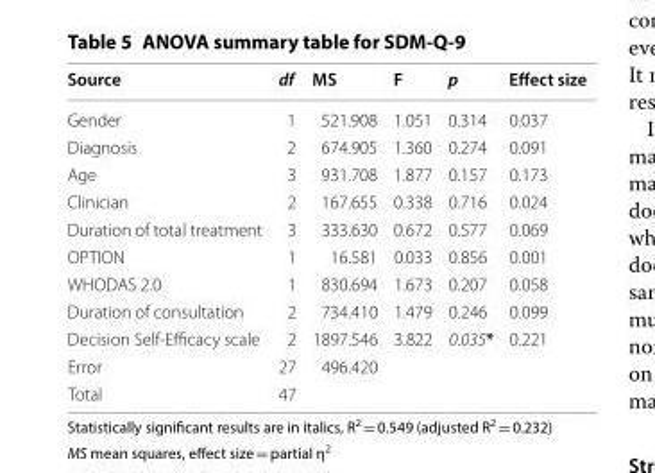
<table><thead><tr><td>Source</td><td>df</td><td>MS</td><td>F</td><td>p</td><td>Effect size</td></tr></thead><tbody><tr><td>Gender</td><td>1</td><td>521.908</td><td>1.051</td><td>0.314</td><td>0.037</td></tr><tr><td>Diagnosis</td><td>2</td><td>674.905</td><td>1.360</td><td>0.274</td><td>0.091</td></tr><tr><td>Age</td><td>3</td><td>931.708</td><td>1.877</td><td>0.157</td><td>0.173</td></tr><tr><td>Clinician</td><td>2</td><td>167.655</td><td>0.338</td><td>0.716</td><td>0.024</td></tr><tr><td>Duration of total treatment</td><td>3</td><td>333.630</td><td>0.672</td><td>0.577</td><td>0.069</td></tr><tr><td>OPTION</td><td>1</td><td>16.581</td><td>0.033</td><td>0.856</td><td>0.001</td></tr><tr><td>WHODAS 2.0</td><td>1</td><td>830.694</td><td>1.673</td><td>0.207</td><td>0.058</td></tr><tr><td>Duration of consultation</td><td>2</td><td>734.410</td><td>1.479</td><td>0.246</td><td>0.099</td></tr><tr><td>Decision Self-Efficacy scale</td><td>2</td><td>1897.546</td><td>3.822</td><td>0.035*</td><td>0.221</td></tr><tr><td>Error</td><td>27</td><td>496.420</td><td></td><td></td><td></td></tr><tr><td>Total</td><td>47</td><td></td><td></td><td></td><td></td></tr></tbody></table>